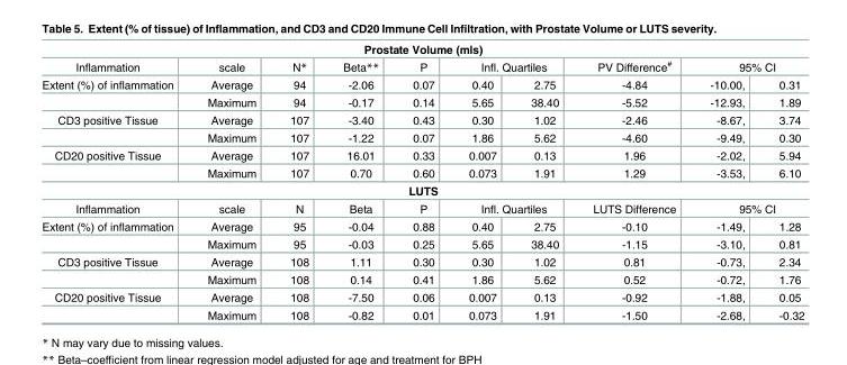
<table><tbody><tr><td colspan="10">Prostate Volume (mls)</td></tr><tr><td>Inflammation</td><td>scale</td><td>N*</td><td>Beta**</td><td>P</td><td colspan="2">Infl. Quartiles</td><td>PV Difference<sup>#</sup></td><td colspan="2">95% CI</td></tr><tr><td rowspan="2">Extent (%) of inflammation</td><td>Average</td><td>94</td><td>-2.06</td><td>0.07</td><td>0.40</td><td>2.75</td><td>-4.84</td><td>-10.00,</td><td>0.31</td></tr><tr><td>Maximum</td><td>94</td><td>-0.17</td><td>0.14</td><td>5.65</td><td>38.40</td><td>-5.52</td><td>-12.93,</td><td>1.89</td></tr><tr><td rowspan="2">CD3 positive Tissue</td><td>Average</td><td>107</td><td>-3.40</td><td>0.43</td><td>0.30</td><td>1.02</td><td>-2.46</td><td>-8.67,</td><td>3.74</td></tr><tr><td>Maximum</td><td>107</td><td>-1.22</td><td>0.07</td><td>1.86</td><td>5.62</td><td>-4.60</td><td>-9.49,</td><td>0.30</td></tr><tr><td rowspan="2">CD20 positive Tissue</td><td>Average</td><td>107</td><td>16.01</td><td>0.33</td><td>0.007</td><td>0.13</td><td>1.96</td><td>-2.02,</td><td>5.94</td></tr><tr><td>Maximum</td><td>107</td><td>0.70</td><td>0.60</td><td>0.073</td><td>1.91</td><td>1.29</td><td>-3.53,</td><td>6.10</td></tr><tr><td colspan="10">LUTS</td></tr><tr><td>Inflammation</td><td>scale</td><td>N</td><td>Beta</td><td>P</td><td colspan="2">Infl. Quartiles</td><td>LUTS Difference</td><td colspan="2">95% CI</td></tr><tr><td rowspan="2">Extent (%) of inflammation</td><td>Average</td><td>95</td><td>-0.04</td><td>0.88</td><td>0.40</td><td>2.75</td><td>-0.10</td><td>-1.49,</td><td>1.28</td></tr><tr><td>Maximum</td><td>95</td><td>-0.03</td><td>0.25</td><td>5.65</td><td>38.40</td><td>-1.15</td><td>-3.10,</td><td>0.81</td></tr><tr><td rowspan="2">CD3 positive Tissue</td><td>Average</td><td>108</td><td>1.11</td><td>0.30</td><td>0.30</td><td>1.02</td><td>0.81</td><td>-0.73,</td><td>2.34</td></tr><tr><td>Maximum</td><td>108</td><td>0.14</td><td>0.41</td><td>1.86</td><td>5.62</td><td>0.52</td><td>-0.72,</td><td>1.76</td></tr><tr><td rowspan="2">CD20 positive Tissue</td><td>Average</td><td>108</td><td>-7.50</td><td>0.06</td><td>0.007</td><td>0.13</td><td>-0.92</td><td>-1.88,</td><td>0.05</td></tr><tr><td>Maximum</td><td>108</td><td>-0.82</td><td>0.01</td><td>0.073</td><td>1.91</td><td>-1.50</td><td>-2.68,</td><td>-0.32</td></tr></tbody></table>